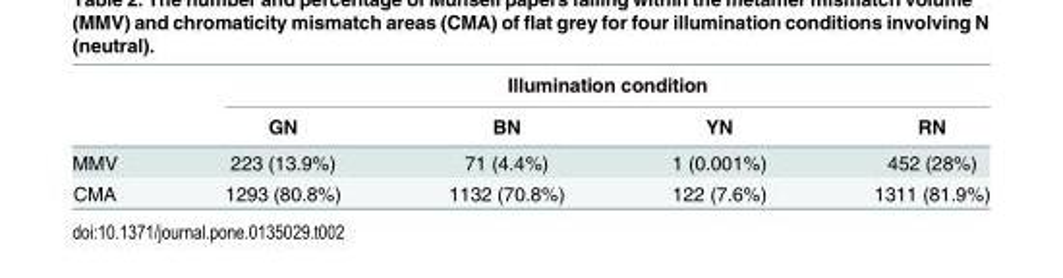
<table><thead><tr><td rowspan="2"></td><td colspan="4">Illumination condition</td></tr><tr><td>GN</td><td>BN</td><td>YN</td><td>RN</td></tr></thead><tbody><tr><td>MMV</td><td>223 (13.9%)</td><td>71 (4.4%)</td><td>1 (0.001%)</td><td>452 (28%)</td></tr><tr><td>CMA</td><td>1293 (80.8%)</td><td>1132 (70.8%)</td><td>122 (7.6%)</td><td>1311 (81.9%)</td></tr></tbody></table>